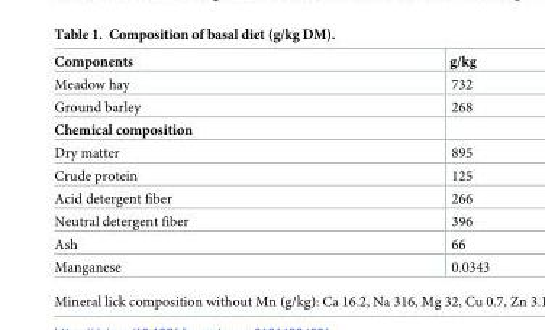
<table><thead><tr><td>Components</td><td>g/kg</td></tr></thead><tbody><tr><td>Meadow hay</td><td>732</td></tr><tr><td>Ground barley</td><td>268</td></tr><tr><td colspan="2">Chemical composition</td></tr><tr><td>Dry matter</td><td>895</td></tr><tr><td>Crude protein</td><td>125</td></tr><tr><td>Acid detergent fiber</td><td>266</td></tr><tr><td>Neutral detergent fiber</td><td>396</td></tr><tr><td>Ash</td><td>66</td></tr><tr><td>Manganese</td><td>0.0343</td></tr></tbody></table>